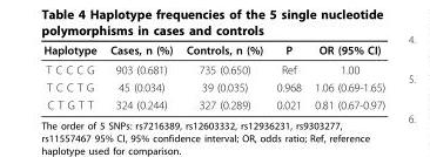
<table><thead><tr><td>Haplotype</td><td>Cases, n (%)</td><td>Controls, n (%)</td><td>P</td><td>OR (95% CI)</td></tr></thead><tbody><tr><td>T C C C G</td><td>903 (0.681)</td><td>735 (0.650)</td><td>Ref</td><td>1.00</td></tr><tr><td>T C C T G</td><td>45 (0.034)</td><td>39 (0.035)</td><td>0.968</td><td>1.06 (0.69-1.65)</td></tr><tr><td>C T G T T</td><td>324 (0.244)</td><td>327 (0.289)</td><td>0.021</td><td>0.81 (0.67-0.97)</td></tr></tbody></table>